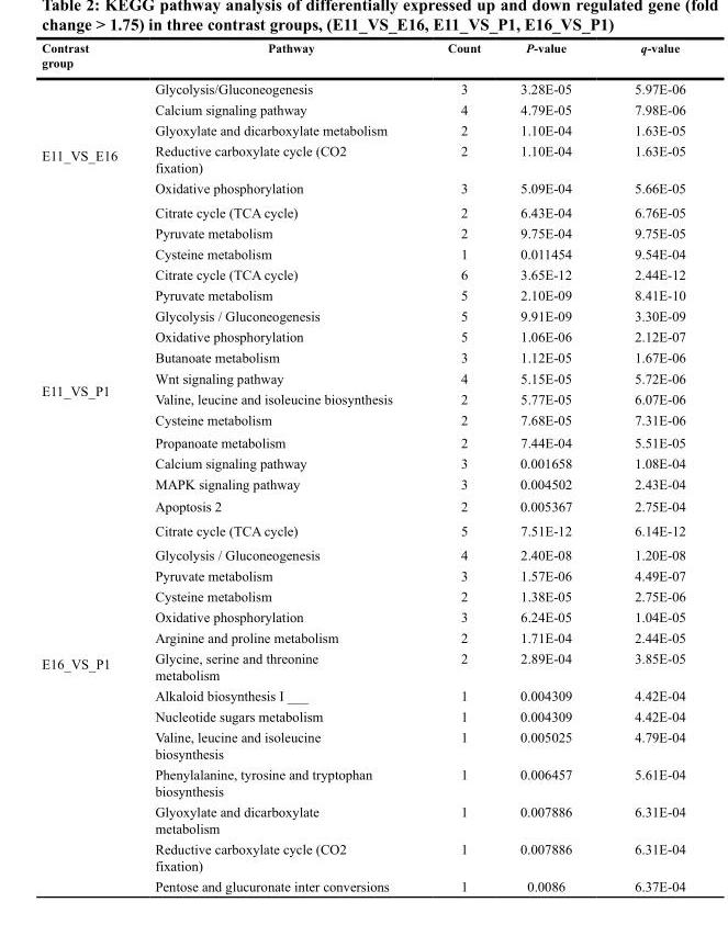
<table><thead><tr><td>Contrast group</td><td>Pathway</td><td>Count</td><td>P-value</td><td>q-value</td></tr></thead><tbody><tr><td rowspan="8">E11_VS_E16</td><td>Glycolysis/Gluconeogenesis</td><td>3</td><td>3.28E-05</td><td>5.97E-06</td></tr><tr><td>Calcium signaling pathway</td><td>4</td><td>4.79E-05</td><td>7.98E-06</td></tr><tr><td>Glyoxylate and dicarboxylate metabolism</td><td>2</td><td>1.10E-04</td><td>1.63E-05</td></tr><tr><td>Reductive carboxylate cycle (CO2 fixation)</td><td>2</td><td>1.10E-04</td><td>1.63E-05</td></tr><tr><td>Oxidative phosphorylation</td><td>3</td><td>5.09E-04</td><td>5.66E-05</td></tr><tr><td>Citrate cycle (TCA cycle)</td><td>2</td><td>6.43E-04</td><td>6.76E-05</td></tr><tr><td>Pyruvate metabolism</td><td>2</td><td>9.75E-04</td><td>9.75E-05</td></tr><tr><td>Cysteine metabolism</td><td>1</td><td>0.011454</td><td>9.54E-04</td></tr><tr><td rowspan="12">E11_VS_P1</td><td>Citrate cycle (TCA cycle)</td><td>6</td><td>3.65E-12</td><td>2.44E-12</td></tr><tr><td>Pyruvate metabolism</td><td>5</td><td>2.10E-09</td><td>8.41E-10</td></tr><tr><td>Glycolysis / Gluconeogenesis</td><td>5</td><td>9.91E-09</td><td>3.30E-09</td></tr><tr><td>Oxidative phosphorylation</td><td>5</td><td>1.06E-06</td><td>2.12E-07</td></tr><tr><td>Butanoate metabolism</td><td>3</td><td>1.12E-05</td><td>1.67E-06</td></tr><tr><td>Wnt signaling pathway</td><td>4</td><td>5.15E-05</td><td>5.72E-06</td></tr><tr><td>Valine, leucine and isoleucine biosynthesis</td><td>2</td><td>5.77E-05</td><td>6.07E-06</td></tr><tr><td>Cysteine metabolism</td><td>2</td><td>7.68E-05</td><td>7.31E-06</td></tr><tr><td>Propanoate metabolism</td><td>2</td><td>7.44E-04</td><td>5.51E-05</td></tr><tr><td>Calcium signaling pathway</td><td>3</td><td>0.001658</td><td>1.08E-04</td></tr><tr><td>MAPK signaling pathway</td><td>3</td><td>0.004502</td><td>2.43E-04</td></tr><tr><td>Apoptosis 2</td><td>2</td><td>0.005367</td><td>2.75E-04</td></tr><tr><td rowspan="14">E16_VS_P1</td><td>Citrate cycle (TCA cycle)</td><td>5</td><td>7.51E-12</td><td>6.14E-12</td></tr><tr><td>Glycolysis / Gluconeogenesis</td><td>4</td><td>2.40E-08</td><td>1.20E-08</td></tr><tr><td>Pyruvate metabolism</td><td>3</td><td>1.57E-06</td><td>4.49E-07</td></tr><tr><td>Cysteine metabolism</td><td>2</td><td>1.38E-05</td><td>2.75E-06</td></tr><tr><td>Oxidative phosphorylation</td><td>3</td><td>6.24E-05</td><td>1.04E-05</td></tr><tr><td>Arginine and proline metabolism</td><td>2</td><td>1.71E-04</td><td>2.44E-05</td></tr><tr><td>Glycine, serine and threonine metabolism</td><td>2</td><td>2.89E-04</td><td>3.85E-05</td></tr><tr><td>Alkaloid biosynthesis I ___</td><td>1</td><td>0.004309</td><td>4.42E-04</td></tr><tr><td>Nucleotide sugars metabolism</td><td>1</td><td>0.004309</td><td>4.42E-04</td></tr><tr><td>Valine, leucine and isoleucine biosynthesis</td><td>1</td><td>0.005025</td><td>4.79E-04</td></tr><tr><td>Phenylalanine, tyrosine and tryptophan biosynthesis</td><td>1</td><td>0.006457</td><td>5.61E-04</td></tr><tr><td>Glyoxylate and dicarboxylate metabolism</td><td>1</td><td>0.007886</td><td>6.31E-04</td></tr><tr><td>Reductive carboxylate cycle (CO2 fixation)</td><td>1</td><td>0.007886</td><td>6.31E-04</td></tr><tr><td>Pentose and glucuronate inter conversions</td><td>1</td><td>0.0086</td><td>6.37E-04</td></tr></tbody></table>